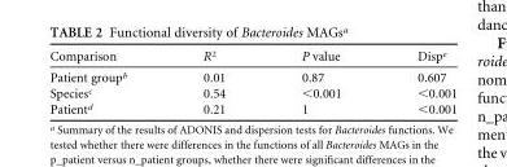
<table><thead><tr><td>Comparison</td><td>R<sup>2</sup></td><td>P value</td><td>Disp<sup>e</sup></td></tr></thead><tbody><tr><td>Patient group<sup>b</sup></td><td>0.01</td><td>0.87</td><td>0.607</td></tr><tr><td>Species<sup>c</sup></td><td>0.54</td><td>&lt;0.001</td><td>&lt;0.001</td></tr><tr><td>Patient<sup>d</sup></td><td>0.21</td><td>1</td><td>&lt;0.001</td></tr></tbody></table>